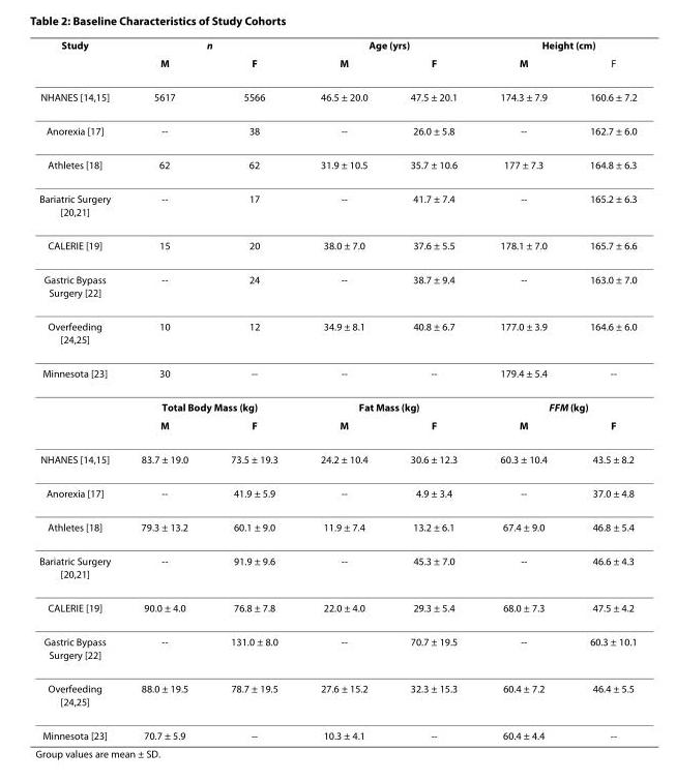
<table><thead><tr><td rowspan="2">Study</td><td colspan="2">n</td><td colspan="2">Age (yrs)</td><td colspan="2">Height (cm)</td></tr><tr><td>M</td><td>F</td><td>M</td><td>F</td><td>M</td><td>F</td></tr></thead><tbody><tr><td>NHANES [14,15]</td><td>5617</td><td>5566</td><td>46.5 ± 20.0</td><td>47.5 ± 20.1</td><td>174.3 ± 7.9</td><td>160.6 ± 7.2</td></tr><tr><td>Anorexia [17]</td><td>--</td><td>38</td><td>--</td><td>26.0 ± 5.8</td><td>--</td><td>162.7 ± 6.0</td></tr><tr><td>Athletes [18]</td><td>62</td><td>62</td><td>31.9 ± 10.5</td><td>35.7 ± 10.6</td><td>177 ± 7.3</td><td>164.8 ± 6.3</td></tr><tr><td>Bariatric Surgery [20,21]</td><td>--</td><td>17</td><td>--</td><td>41.7 ± 7.4</td><td>--</td><td>165.2 ± 6.3</td></tr><tr><td>CALERIE [19]</td><td>15</td><td>20</td><td>38.0 ± 7.0</td><td>37.6 ± 5.5</td><td>178.1 ± 7.0</td><td>165.7 ± 6.6</td></tr><tr><td>Gastric Bypass Surgery [22]</td><td>--</td><td>24</td><td>--</td><td>38.7 ± 9.4</td><td>--</td><td>163.0 ± 7.0</td></tr><tr><td>Overfeeding [24,25]</td><td>10</td><td>12</td><td>34.9 ± 8.1</td><td>40.8 ± 6.7</td><td>177.0 ± 3.9</td><td>164.6 ± 6.0</td></tr><tr><td rowspan="3">Minnesota [23]</td><td>30</td><td>--</td><td>--</td><td>--</td><td>179.4 ± 5.4</td><td>--</td></tr><tr><td colspan="2">Total Body Mass (kg)</td><td colspan="2">Fat Mass (kg)</td><td colspan="2">FFM (kg)</td></tr><tr><td>M</td><td>F</td><td>M</td><td>F</td><td>M</td><td>F</td></tr><tr><td>NHANES [14,15]</td><td>83.7 ± 19.0</td><td>73.5 ± 19.3</td><td>24.2 ± 10.4</td><td>30.6 ± 12.3</td><td>60.3 ± 10.4</td><td>43.5 ± 8.2</td></tr><tr><td>Anorexia [17]</td><td>--</td><td>41.9 ± 5.9</td><td>--</td><td>4.9 ± 3.4</td><td>--</td><td>37.0 ± 4.8</td></tr><tr><td>Athletes [18]</td><td>79.3 ± 13.2</td><td>60.1 ± 9.0</td><td>11.9 ± 7.4</td><td>13.2 ± 6.1</td><td>67.4 ± 9.0</td><td>46.8 ± 5.4</td></tr><tr><td>Bariatric Surgery [20,21]</td><td>--</td><td>91.9 ± 9.6</td><td>--</td><td>45.3 ± 7.0</td><td>--</td><td>46.6 ± 4.3</td></tr><tr><td>CALERIE [19]</td><td>90.0 ± 4.0</td><td>76.8 ± 7.8</td><td>22.0 ± 4.0</td><td>29.3 ± 5.4</td><td>68.0 ± 7.3</td><td>47.5 ± 4.2</td></tr><tr><td>Gastric Bypass Surgery [22]</td><td>--</td><td>131.0 ± 8.0</td><td>--</td><td>70.7 ± 19.5</td><td>--</td><td>60.3 ± 10.1</td></tr><tr><td>Overfeeding [24,25]</td><td>88.0 ± 19.5</td><td>78.7 ± 19.5</td><td>27.6 ± 15.2</td><td>32.3 ± 15.3</td><td>60.4 ± 7.2</td><td>46.4 ± 5.5</td></tr><tr><td>Minnesota [23]</td><td>70.7 ± 5.9</td><td>--</td><td>10.3 ± 4.1</td><td>--</td><td>60.4 ± 4.4</td><td>--</td></tr></tbody></table>